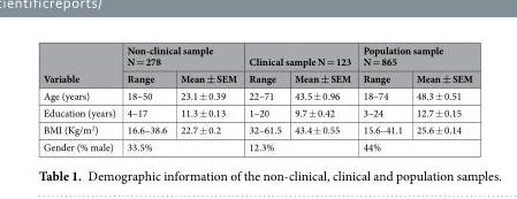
<table><thead><tr><td rowspan="2">Variable</td><td colspan="2">Non-clinical sample N = 278</td><td colspan="2">Clinical sample N = 123</td><td colspan="2">Population sample N = 865</td></tr><tr><td>Range</td><td>Mean ± SEM</td><td>Range</td><td>Mean ± SEM</td><td>Range</td><td>Mean ± SEM</td></tr></thead><tbody><tr><td>Age (years)</td><td>18–50</td><td>23.1 ± 0.39</td><td>22–71</td><td>43.5 ± 0.96</td><td>18–74</td><td>48.3 ± 0.51</td></tr><tr><td>Education (years)</td><td>4–17</td><td>11.3 ± 0.13</td><td>1–20</td><td>9.7 ± 0.42</td><td>3–24</td><td>12.7 ± 0.15</td></tr><tr><td>BMI (Kg/m<sup>2</sup>)</td><td>16.6–38.6</td><td>22.7 ± 0.2</td><td>32–61.5</td><td>43.4 ± 0.55</td><td>15.6–41.1</td><td>25.6 ± 0.14</td></tr><tr><td>Gender (% male)</td><td colspan="2">33.5%</td><td colspan="2">12.3%</td><td colspan="2">44%</td></tr></tbody></table>